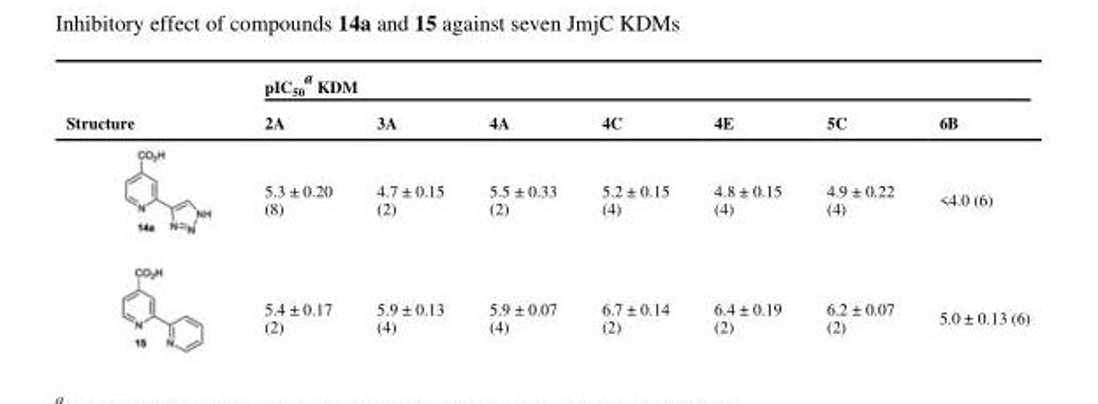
<table><thead><tr><td rowspan="2">Structure</td><td colspan="7">pIC<sub>50</sub><sup>a</sup> KDM</td></tr><tr><td>2A</td><td>3A</td><td>4A</td><td>4C</td><td>4E</td><td>5C</td><td>6B</td></tr></thead><tbody><tr><td></td><td>5.3 ± 0.20 (8)</td><td>4.7 ± 0.15 (2)</td><td>5.5 ± 0.33 (2)</td><td>5.2 ± 0.15 (4)</td><td>4.8 ± 0.15 (4)</td><td>4.9 ± 0.22 (4)</td><td>&lt;4.0 (6)</td></tr><tr><td></td><td>5.4 ± 0.17 (2)</td><td>5.9 ± 0.13 (4)</td><td>5.9 ± 0.07 (4)</td><td>6.7 ± 0.14 (2)</td><td>6.4 ± 0.19 (2)</td><td>6.2 ± 0.07 (2)</td><td>5.0 ± 0.13 (6)</td></tr></tbody></table>